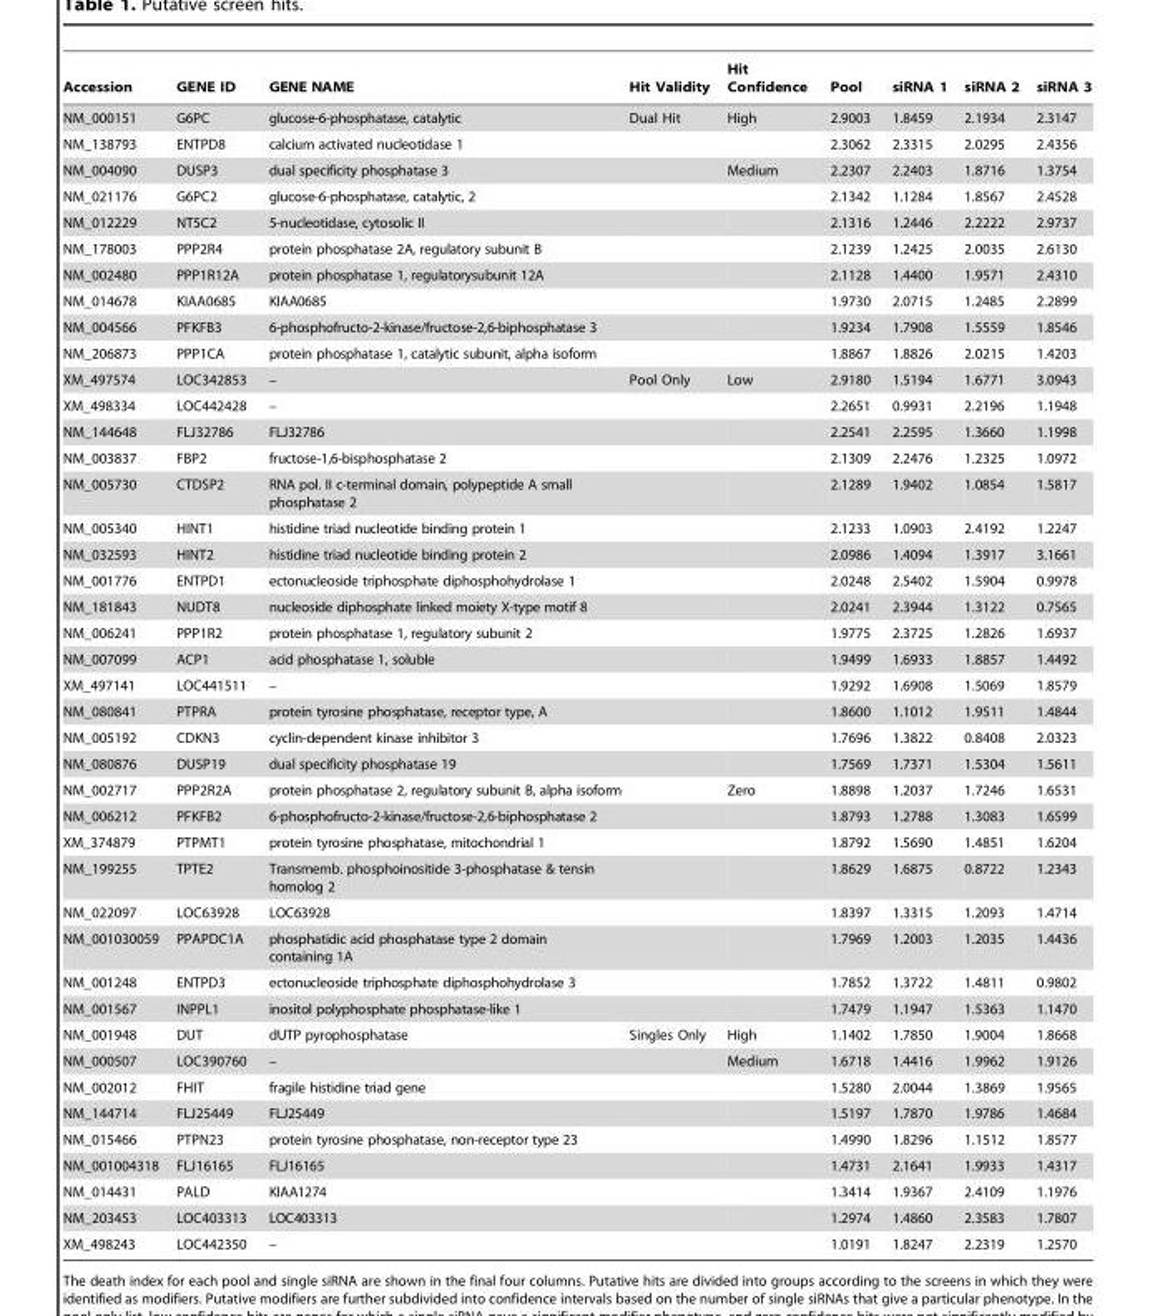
<table><thead><tr><td>Accession</td><td>GENE ID</td><td>GENE NAME</td><td>Hit Validity</td><td>Hit Confidence</td><td>Pool</td><td>siRNA 1</td><td>siRNA 2</td><td>siRNA 3</td></tr></thead><tbody><tr><td>NM_000151</td><td>G6PC</td><td>glucose-6-phosphatase, catalytic</td><td>Dual Hit</td><td>High</td><td>2.9003</td><td>1.8459</td><td>2.1934</td><td>2.3147</td></tr><tr><td>NM_138793</td><td>ENTPD8</td><td>calcium activated nucleotidase 1</td><td></td><td></td><td>2.3062</td><td>2.3315</td><td>2.0295</td><td>2.4356</td></tr><tr><td>NM_004090</td><td>DUSP3</td><td>dual specificity phosphatase 3</td><td></td><td>Medium</td><td>2.2307</td><td>2.2403</td><td>1.8716</td><td>1.3754</td></tr><tr><td>NM_021176</td><td>G6PC2</td><td>glucose-6-phosphatase, catalytic, 2</td><td></td><td></td><td>2.1342</td><td>1.1284</td><td>1.8567</td><td>2.4528</td></tr><tr><td>NM_012229</td><td>NT5C2</td><td>5-nucleotidase, cytosolic II</td><td></td><td></td><td>2.1316</td><td>1.2446</td><td>2.2222</td><td>2.9737</td></tr><tr><td>NM_178003</td><td>PPP2R4</td><td>protein phosphatase 2A, regulatory subunit B</td><td></td><td></td><td>2.1239</td><td>1.2425</td><td>2.0035</td><td>2.6130</td></tr><tr><td>NM_002480</td><td>PPP1R12A</td><td>protein phosphatase 1, regulatorysubunit 12A</td><td></td><td></td><td>2.1128</td><td>1.4400</td><td>1.9571</td><td>2.4310</td></tr><tr><td>NM_014678</td><td>KIAA0685</td><td>KIAA0685</td><td></td><td></td><td>1.9730</td><td>2.0715</td><td>1.2485</td><td>2.2899</td></tr><tr><td>NM_004566</td><td>PFKFB3</td><td>6-phosphofructo-2-kinase/fructose-2,6-biphosphatase 3</td><td></td><td></td><td>1.9234</td><td>1.7908</td><td>1.5559</td><td>1.8546</td></tr><tr><td>NM_206873</td><td>PPP1CA</td><td>protein phosphatase 1, catalytic subunit, alpha isoform</td><td></td><td></td><td>1.8867</td><td>1.8826</td><td>2.0215</td><td>1.4203</td></tr><tr><td>XM_497574</td><td>LOC342853</td><td>–</td><td>Pool Only</td><td>Low</td><td>2.9180</td><td>1.5194</td><td>1.6771</td><td>3.0943</td></tr><tr><td>XM_498334</td><td>LOC442428</td><td>–</td><td></td><td></td><td>2.2651</td><td>0.9931</td><td>2.2196</td><td>1.1948</td></tr><tr><td>NM_144648</td><td>FLJ32786</td><td>FLJ32786</td><td></td><td></td><td>2.2541</td><td>2.2595</td><td>1.3660</td><td>1.1998</td></tr><tr><td>NM_003837</td><td>FBP2</td><td>fructose-1,6-bisphosphatase 2</td><td></td><td></td><td>2.1309</td><td>2.2476</td><td>1.2325</td><td>1.0972</td></tr><tr><td>NM_005730</td><td>CTDSP2</td><td>RNA pol. II c-terminal domain, polypeptide A small phosphatase 2</td><td></td><td></td><td>2.1289</td><td>1.9402</td><td>1.0854</td><td>1.5817</td></tr><tr><td>NM_005340</td><td>HINT1</td><td>histidine triad nucleotide binding protein 1</td><td></td><td></td><td>2.1233</td><td>1.0903</td><td>2.4192</td><td>1.2247</td></tr><tr><td>NM_032593</td><td>HINT2</td><td>histidine triad nucleotide binding protein 2</td><td></td><td></td><td>2.0986</td><td>1.4094</td><td>1.3917</td><td>3.1661</td></tr><tr><td>NM_001776</td><td>ENTPD1</td><td>ectonucleoside triphosphate diphosphohydrolase 1</td><td></td><td></td><td>2.0248</td><td>2.5402</td><td>1.5904</td><td>0.9978</td></tr><tr><td>NM_181843</td><td>NUDT8</td><td>nucleoside diphosphate linked moiety X-type motif 8</td><td></td><td></td><td>2.0241</td><td>2.3944</td><td>1.3122</td><td>0.7565</td></tr><tr><td>NM_006241</td><td>PPP1R2</td><td>protein phosphatase 1, regulatory subunit 2</td><td></td><td></td><td>1.9775</td><td>2.3725</td><td>1.2826</td><td>1.6937</td></tr><tr><td>NM_007099</td><td>ACP1</td><td>acid phosphatase 1, soluble</td><td></td><td></td><td>1.9499</td><td>1.6933</td><td>1.8857</td><td>1.4492</td></tr><tr><td>XM_497141</td><td>LOC441511</td><td>–</td><td></td><td></td><td>1.9292</td><td>1.6908</td><td>1.5069</td><td>1.8579</td></tr><tr><td>NM_080841</td><td>PTPRA</td><td>protein tyrosine phosphatase, receptor type, A</td><td></td><td></td><td>1.8600</td><td>1.1012</td><td>1.9511</td><td>1.4844</td></tr><tr><td>NM_005192</td><td>CDKN3</td><td>cyclin-dependent kinase inhibitor 3</td><td></td><td></td><td>1.7696</td><td>1.3822</td><td>0.8408</td><td>2.0323</td></tr><tr><td>NM_080876</td><td>DUSP19</td><td>dual specificity phosphatase 19</td><td></td><td></td><td>1.7569</td><td>1.7371</td><td>1.5304</td><td>1.5611</td></tr><tr><td>NM_002717</td><td>PPP2R2A</td><td>protein phosphatase 2, regulatory subunit B, alpha isoform</td><td></td><td>Zero</td><td>1.8898</td><td>1.2037</td><td>1.7246</td><td>1.6531</td></tr><tr><td>NM_006212</td><td>PFKFB2</td><td>6-phosphofructo-2-kinase/fructose-2,6-biphosphatase 2</td><td></td><td></td><td>1.8793</td><td>1.2788</td><td>1.3083</td><td>1.6599</td></tr><tr><td>XM_374879</td><td>PTPMT1</td><td>protein tyrosine phosphatase, mitochondrial 1</td><td></td><td></td><td>1.8792</td><td>1.5690</td><td>1.4851</td><td>1.6204</td></tr><tr><td>NM_199255</td><td>TPTE2</td><td>Transmemb. phosphoinositide 3-phosphatase &amp; tensin homolog 2</td><td></td><td></td><td>1.8629</td><td>1.6875</td><td>0.8722</td><td>1.2343</td></tr><tr><td>NM_022097</td><td>LOC63928</td><td>LOC63928</td><td></td><td></td><td>1.8397</td><td>1.3315</td><td>1.2093</td><td>1.4714</td></tr><tr><td>NM_001030059</td><td>PPAPDC1A</td><td>phosphatidic acid phosphatase type 2 domain containing 1A</td><td></td><td></td><td>1.7969</td><td>1.2003</td><td>1.2035</td><td>1.4436</td></tr><tr><td>NM_001248</td><td>ENTPD3</td><td>ectonucleoside triphosphate diphosphohydrolase 3</td><td></td><td></td><td>1.7852</td><td>1.3722</td><td>1.4811</td><td>0.9802</td></tr><tr><td>NM_001567</td><td>INPPL1</td><td>inositol polyphosphate phosphatase-like 1</td><td></td><td></td><td>1.7479</td><td>1.1947</td><td>1.5363</td><td>1.1470</td></tr><tr><td>NM_001948</td><td>DUT</td><td>dUTP pyrophosphatase</td><td>Singles Only</td><td>High</td><td>1.1402</td><td>1.7850</td><td>1.9004</td><td>1.8668</td></tr><tr><td>NM_000507</td><td>LOC390760</td><td>–</td><td></td><td>Medium</td><td>1.6718</td><td>1.4416</td><td>1.9962</td><td>1.9126</td></tr><tr><td>NM_002012</td><td>FHIT</td><td>fragile histidine triad gene</td><td></td><td></td><td>1.5280</td><td>2.0044</td><td>1.3869</td><td>1.9565</td></tr><tr><td>NM_144714</td><td>FLJ25449</td><td>FLJ25449</td><td></td><td></td><td>1.5197</td><td>1.7870</td><td>1.9786</td><td>1.4684</td></tr><tr><td>NM_015466</td><td>PTPN23</td><td>protein tyrosine phosphatase, non-receptor type 23</td><td></td><td></td><td>1.4990</td><td>1.8296</td><td>1.1512</td><td>1.8577</td></tr><tr><td>NM_001004318</td><td>FLJ16165</td><td>FLJ16165</td><td></td><td></td><td>1.4731</td><td>2.1641</td><td>1.9933</td><td>1.4317</td></tr><tr><td>NM_014431</td><td>PALD</td><td>KIAA1274</td><td></td><td></td><td>1.3414</td><td>1.9367</td><td>2.4109</td><td>1.1976</td></tr><tr><td>NM_203453</td><td>LOC403313</td><td>LOC403313</td><td></td><td></td><td>1.2974</td><td>1.4860</td><td>2.3583</td><td>1.7807</td></tr><tr><td>XM_498243</td><td>LOC442350</td><td>–</td><td></td><td></td><td>1.0191</td><td>1.8247</td><td>2.2319</td><td>1.2570</td></tr></tbody></table>